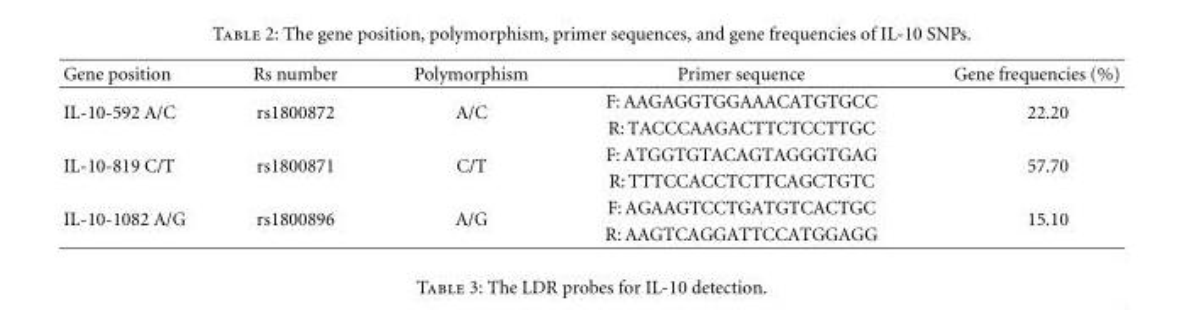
<table><thead><tr><td>Gene position</td><td>Rs number</td><td>Polymorphism</td><td>Primer sequence</td><td>Gene frequencies (%)</td></tr></thead><tbody><tr><td rowspan="2">IL-10-592 A/C</td><td rowspan="2">rs1800872</td><td rowspan="2">A/C</td><td>F: AAGAGGTGGAAACATGTGCC</td><td rowspan="2">22.20</td></tr><tr><td>R: TACCCAAGACTTCTCCTTGC</td></tr><tr><td rowspan="2">IL-10-819 C/T</td><td rowspan="2">rs1800871</td><td rowspan="2">C/T</td><td>F: ATGGTGTACAGTAGGGTGAG</td><td rowspan="2">57.70</td></tr><tr><td>R: TTTCCACCTCTTCAGCTGTC</td></tr><tr><td rowspan="2">IL-10-1082 A/G</td><td rowspan="2">rs1800896</td><td rowspan="2">A/G</td><td>F: AGAAGTCCTGATGTCACTGC</td><td rowspan="2">15.10</td></tr><tr><td>R: AAGTCAGGATTCCATGGAGG</td></tr></tbody></table>